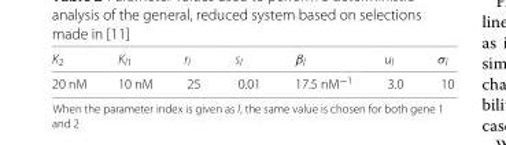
<table><thead><tr><td>K<sub>2</sub></td><td>K<sub>l1</sub></td><td>r<sub>l</sub></td><td>s<sub>l</sub></td><td>β<sub>l</sub></td><td>u<sub>l</sub></td><td>σ<sub>l</sub></td></tr></thead><tbody><tr><td>20 nM</td><td>10 nM</td><td>25</td><td>0.01</td><td>17.5 nM<sup>−1</sup></td><td>3.0</td><td>10</td></tr></tbody></table>